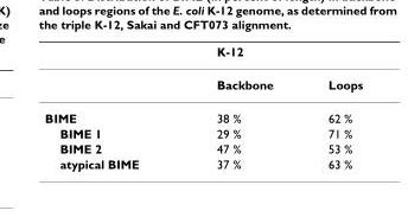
<table><thead><tr><td></td><td>K-12</td><td></td></tr></thead><tbody><tr><td></td><td>Backbone</td><td>Loops</td></tr><tr><td>BIME</td><td>38 %</td><td>62 %</td></tr><tr><td>BIME 1</td><td>29 %</td><td>71 %</td></tr><tr><td>BIME 2</td><td>47 %</td><td>53 %</td></tr><tr><td>atypical BIME</td><td>37 %</td><td>63 %</td></tr></tbody></table>